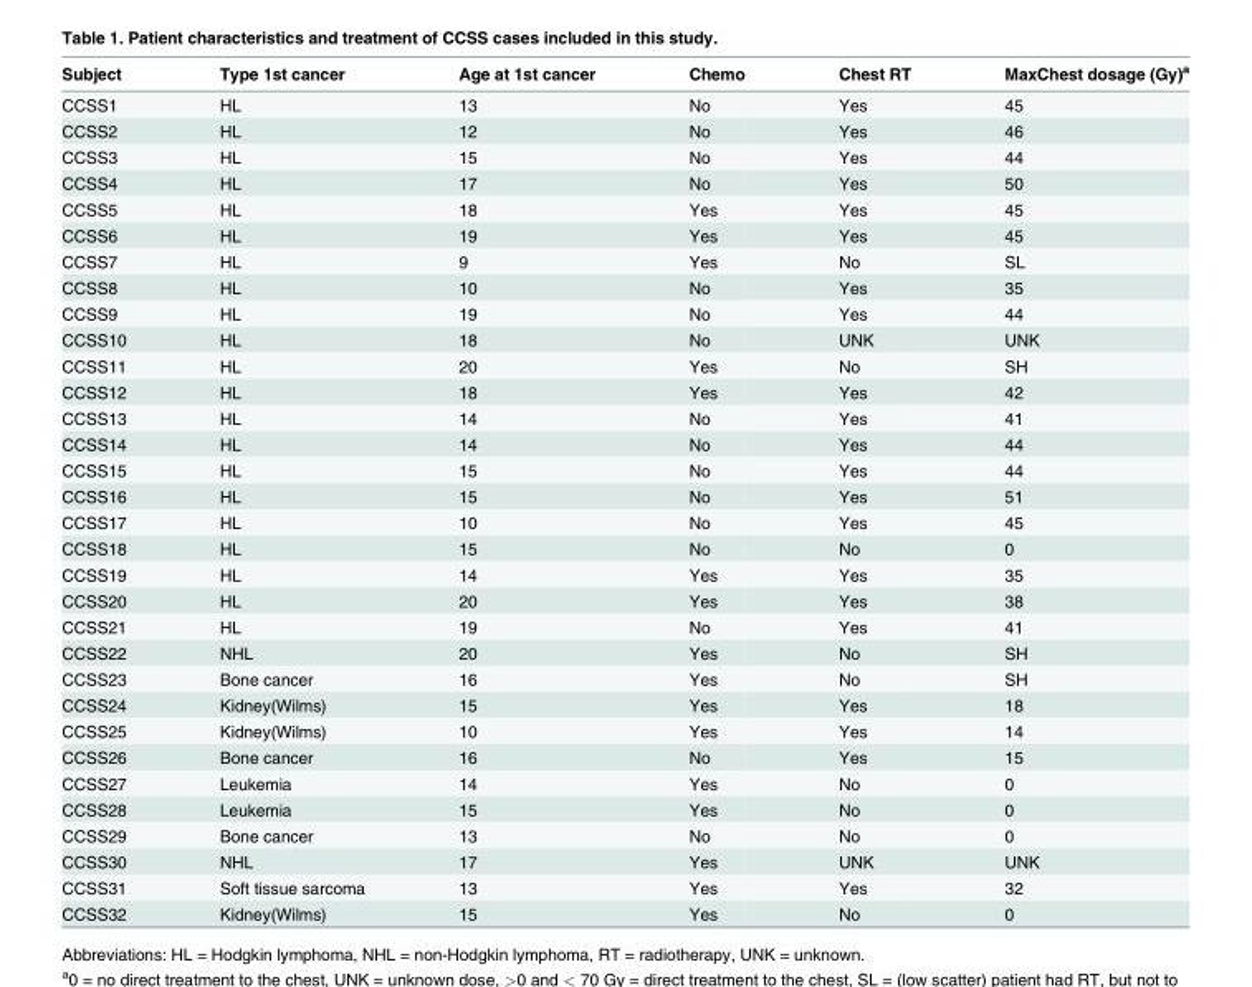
<table><thead><tr><td>Subject</td><td>Type 1st cancer</td><td>Age at 1st cancer</td><td>Chemo</td><td>Chest RT</td><td>MaxChest dosage (Gy)<sup>a</sup></td></tr></thead><tbody><tr><td>CCSS1</td><td>HL</td><td>13</td><td>No</td><td>Yes</td><td>45</td></tr><tr><td>CCSS2</td><td>HL</td><td>12</td><td>No</td><td>Yes</td><td>46</td></tr><tr><td>CCSS3</td><td>HL</td><td>15</td><td>No</td><td>Yes</td><td>44</td></tr><tr><td>CCSS4</td><td>HL</td><td>17</td><td>No</td><td>Yes</td><td>50</td></tr><tr><td>CCSS5</td><td>HL</td><td>18</td><td>Yes</td><td>Yes</td><td>45</td></tr><tr><td>CCSS6</td><td>HL</td><td>19</td><td>Yes</td><td>Yes</td><td>45</td></tr><tr><td>CCSS7</td><td>HL</td><td>9</td><td>Yes</td><td>No</td><td>SL</td></tr><tr><td>CCSS8</td><td>HL</td><td>10</td><td>No</td><td>Yes</td><td>35</td></tr><tr><td>CCSS9</td><td>HL</td><td>19</td><td>No</td><td>Yes</td><td>44</td></tr><tr><td>CCSS10</td><td>HL</td><td>18</td><td>No</td><td>UNK</td><td>UNK</td></tr><tr><td>CCSS11</td><td>HL</td><td>20</td><td>Yes</td><td>No</td><td>SH</td></tr><tr><td>CCSS12</td><td>HL</td><td>18</td><td>Yes</td><td>Yes</td><td>42</td></tr><tr><td>CCSS13</td><td>HL</td><td>14</td><td>No</td><td>Yes</td><td>41</td></tr><tr><td>CCSS14</td><td>HL</td><td>14</td><td>No</td><td>Yes</td><td>44</td></tr><tr><td>CCSS15</td><td>HL</td><td>15</td><td>No</td><td>Yes</td><td>44</td></tr><tr><td>CCSS16</td><td>HL</td><td>15</td><td>No</td><td>Yes</td><td>51</td></tr><tr><td>CCSS17</td><td>HL</td><td>10</td><td>No</td><td>Yes</td><td>45</td></tr><tr><td>CCSS18</td><td>HL</td><td>15</td><td>No</td><td>No</td><td>0</td></tr><tr><td>CCSS19</td><td>HL</td><td>14</td><td>Yes</td><td>Yes</td><td>35</td></tr><tr><td>CCSS20</td><td>HL</td><td>20</td><td>Yes</td><td>Yes</td><td>38</td></tr><tr><td>CCSS21</td><td>HL</td><td>19</td><td>No</td><td>Yes</td><td>41</td></tr><tr><td>CCSS22</td><td>NHL</td><td>20</td><td>Yes</td><td>No</td><td>SH</td></tr><tr><td>CCSS23</td><td>Bone cancer</td><td>16</td><td>Yes</td><td>No</td><td>SH</td></tr><tr><td>CCSS24</td><td>Kidney(Wilms)</td><td>15</td><td>Yes</td><td>Yes</td><td>18</td></tr><tr><td>CCSS25</td><td>Kidney(Wilms)</td><td>10</td><td>Yes</td><td>Yes</td><td>14</td></tr><tr><td>CCSS26</td><td>Bone cancer</td><td>16</td><td>No</td><td>Yes</td><td>15</td></tr><tr><td>CCSS27</td><td>Leukemia</td><td>14</td><td>Yes</td><td>No</td><td>0</td></tr><tr><td>CCSS28</td><td>Leukemia</td><td>15</td><td>Yes</td><td>No</td><td>0</td></tr><tr><td>CCSS29</td><td>Bone cancer</td><td>13</td><td>No</td><td>No</td><td>0</td></tr><tr><td>CCSS30</td><td>NHL</td><td>17</td><td>Yes</td><td>UNK</td><td>UNK</td></tr><tr><td>CCSS31</td><td>Soft tissue sarcoma</td><td>13</td><td>Yes</td><td>Yes</td><td>32</td></tr><tr><td>CCSS32</td><td>Kidney(Wilms)</td><td>15</td><td>Yes</td><td>No</td><td>0</td></tr></tbody></table>